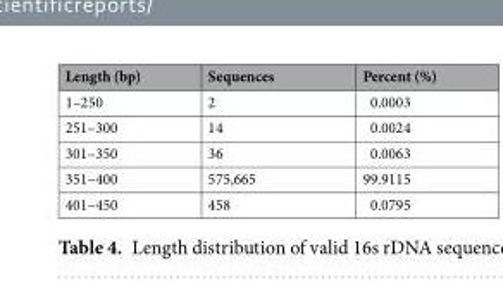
<table><thead><tr><td>Length (bp)</td><td>Sequences</td><td>Percent (%)</td></tr></thead><tbody><tr><td>1–250</td><td>2</td><td>0.0003</td></tr><tr><td>251–300</td><td>14</td><td>0.0024</td></tr><tr><td>301–350</td><td>36</td><td>0.0063</td></tr><tr><td>351–400</td><td>575,665</td><td>99.9115</td></tr><tr><td>401–450</td><td>458</td><td>0.0795</td></tr></tbody></table>